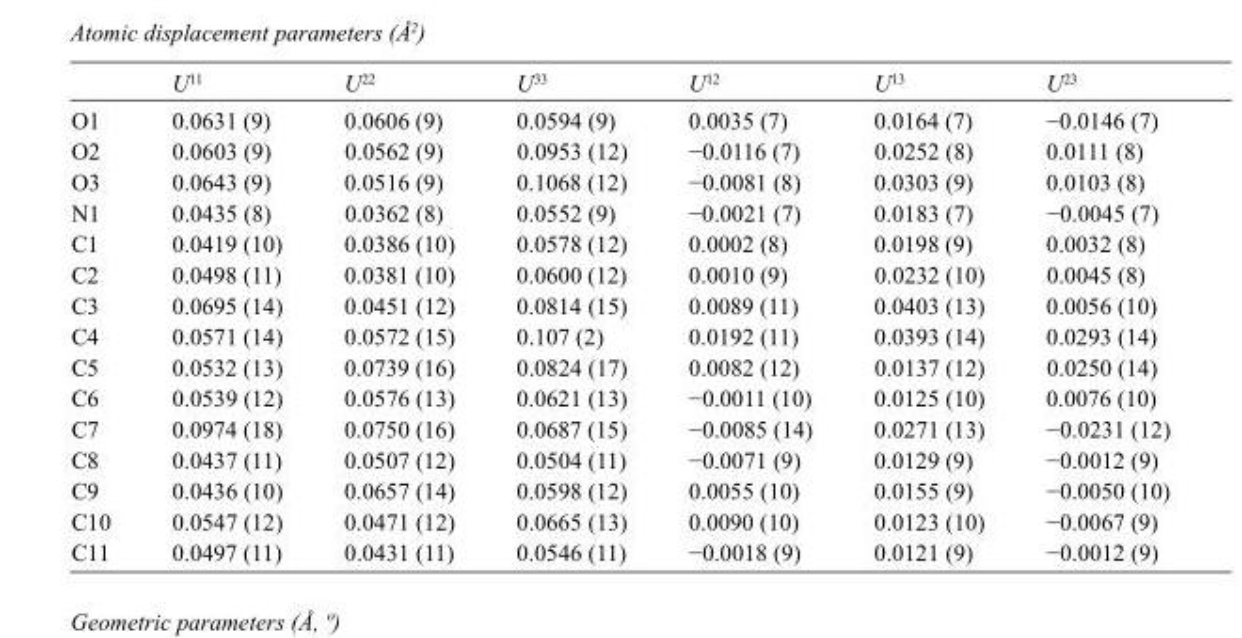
<table><thead><tr><td></td><td>U<sup>11</sup></td><td>U<sup>22</sup></td><td>U<sup>33</sup></td><td>U<sup>12</sup></td><td>U<sup>13</sup></td><td>U<sup>23</sup></td></tr></thead><tbody><tr><td>O1</td><td>0.0631 (9)</td><td>0.0606 (9)</td><td>0.0594 (9)</td><td>0.0035 (7)</td><td>0.0164 (7)</td><td>−0.0146 (7)</td></tr><tr><td>O2</td><td>0.0603 (9)</td><td>0.0562 (9)</td><td>0.0953 (12)</td><td>−0.0116 (7)</td><td>0.0252 (8)</td><td>0.0111 (8)</td></tr><tr><td>O3</td><td>0.0643 (9)</td><td>0.0516 (9)</td><td>0.1068 (12)</td><td>−0.0081 (8)</td><td>0.0303 (9)</td><td>0.0103 (8)</td></tr><tr><td>N1</td><td>0.0435 (8)</td><td>0.0362 (8)</td><td>0.0552 (9)</td><td>−0.0021 (7)</td><td>0.0183 (7)</td><td>−0.0045 (7)</td></tr><tr><td>C1</td><td>0.0419 (10)</td><td>0.0386 (10)</td><td>0.0578 (12)</td><td>0.0002 (8)</td><td>0.0198 (9)</td><td>0.0032 (8)</td></tr><tr><td>C2</td><td>0.0498 (11)</td><td>0.0381 (10)</td><td>0.0600 (12)</td><td>0.0010 (9)</td><td>0.0232 (10)</td><td>0.0045 (8)</td></tr><tr><td>C3</td><td>0.0695 (14)</td><td>0.0451 (12)</td><td>0.0814 (15)</td><td>0.0089 (11)</td><td>0.0403 (13)</td><td>0.0056 (10)</td></tr><tr><td>C4</td><td>0.0571 (14)</td><td>0.0572 (15)</td><td>0.107 (2)</td><td>0.0192 (11)</td><td>0.0393 (14)</td><td>0.0293 (14)</td></tr><tr><td>C5</td><td>0.0532 (13)</td><td>0.0739 (16)</td><td>0.0824 (17)</td><td>0.0082 (12)</td><td>0.0137 (12)</td><td>0.0250 (14)</td></tr><tr><td>C6</td><td>0.0539 (12)</td><td>0.0576 (13)</td><td>0.0621 (13)</td><td>−0.0011 (10)</td><td>0.0125 (10)</td><td>0.0076 (10)</td></tr><tr><td>C7</td><td>0.0974 (18)</td><td>0.0750 (16)</td><td>0.0687 (15)</td><td>−0.0085 (14)</td><td>0.0271 (13)</td><td>−0.0231 (12)</td></tr><tr><td>C8</td><td>0.0437 (11)</td><td>0.0507 (12)</td><td>0.0504 (11)</td><td>−0.0071 (9)</td><td>0.0129 (9)</td><td>−0.0012 (9)</td></tr><tr><td>C9</td><td>0.0436 (10)</td><td>0.0657 (14)</td><td>0.0598 (12)</td><td>0.0055 (10)</td><td>0.0155 (9)</td><td>−0.0050 (10)</td></tr><tr><td>C10</td><td>0.0547 (12)</td><td>0.0471 (12)</td><td>0.0665 (13)</td><td>0.0090 (10)</td><td>0.0123 (10)</td><td>−0.0067 (9)</td></tr><tr><td>C11</td><td>0.0497 (11)</td><td>0.0431 (11)</td><td>0.0546 (11)</td><td>−0.0018 (9)</td><td>0.0121 (9)</td><td>−0.0012 (9)</td></tr></tbody></table>